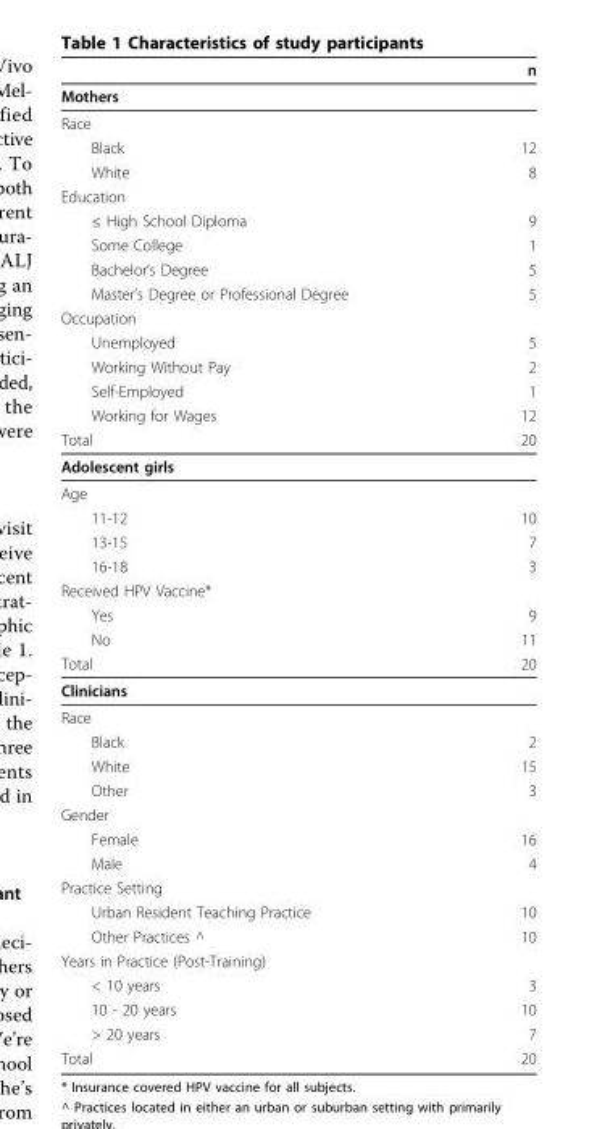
<table><thead><tr><td></td><td>n</td></tr></thead><tbody><tr><td colspan="2">Mothers</td></tr><tr><td colspan="2">Race</td></tr><tr><td>Black</td><td>12</td></tr><tr><td>White</td><td>8</td></tr><tr><td colspan="2">Education</td></tr><tr><td>≤ High School Diploma</td><td>9</td></tr><tr><td>Some College</td><td>1</td></tr><tr><td>Bachelor’s Degree</td><td>5</td></tr><tr><td>Master’s Degree or Professional Degree</td><td>5</td></tr><tr><td colspan="2">Occupation</td></tr><tr><td>Unemployed</td><td>5</td></tr><tr><td>Working Without Pay</td><td>2</td></tr><tr><td>Self-Employed</td><td>1</td></tr><tr><td>Working for Wages</td><td>12</td></tr><tr><td>Total</td><td>20</td></tr><tr><td colspan="2">Adolescent girls</td></tr><tr><td colspan="2">Age</td></tr><tr><td>11-12</td><td>10</td></tr><tr><td>13-15</td><td>7</td></tr><tr><td>16-18</td><td>3</td></tr><tr><td colspan="2">Received HPV Vaccine*</td></tr><tr><td>Yes</td><td>9</td></tr><tr><td>No</td><td>11</td></tr><tr><td>Total</td><td>20</td></tr><tr><td colspan="2">Clinicians</td></tr><tr><td colspan="2">Race</td></tr><tr><td>Black</td><td>2</td></tr><tr><td>White</td><td>15</td></tr><tr><td>Other</td><td>3</td></tr><tr><td colspan="2">Gender</td></tr><tr><td>Female</td><td>16</td></tr><tr><td>Male</td><td>4</td></tr><tr><td colspan="2">Practice Setting</td></tr><tr><td>Urban Resident Teaching Practice</td><td>10</td></tr><tr><td>Other Practices ^</td><td>10</td></tr><tr><td colspan="2">Years in Practice (Post-Training)</td></tr><tr><td>&lt; 10 years</td><td>3</td></tr><tr><td>10 - 20 years</td><td>10</td></tr><tr><td>&gt; 20 years</td><td>7</td></tr><tr><td>Total</td><td>20</td></tr></tbody></table>